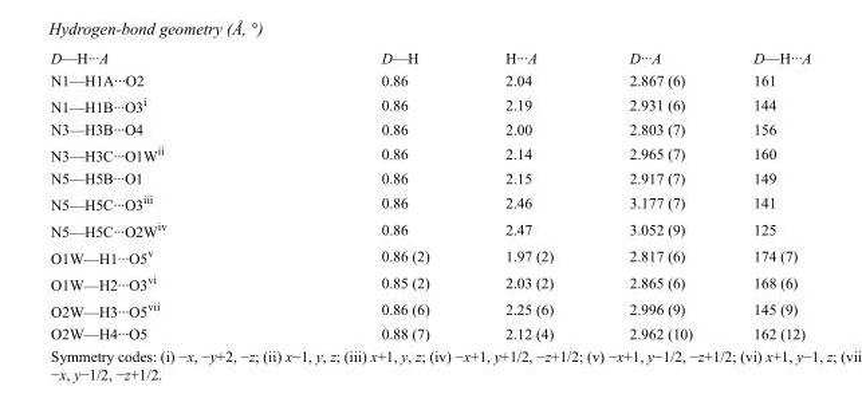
<table><tbody><tr><td>D—H···A</td><td>D—H</td><td>H···A</td><td>D···A</td><td>D—H···A</td></tr><tr><td>N1—H1A···O2</td><td>0.86</td><td>2.04</td><td>2.867 (6)</td><td>161</td></tr><tr><td>N1—H1B···O3<sup>i</sup></td><td>0.86</td><td>2.19</td><td>2.931 (6)</td><td>144</td></tr><tr><td>N3—H3B···O4</td><td>0.86</td><td>2.00</td><td>2.803 (7)</td><td>156</td></tr><tr><td>N3—H3C···O1W<sup>ii</sup></td><td>0.86</td><td>2.14</td><td>2.965 (7)</td><td>160</td></tr><tr><td>N5—H5B···O1</td><td>0.86</td><td>2.15</td><td>2.917 (7)</td><td>149</td></tr><tr><td>N5—H5C···O3<sup>iii</sup></td><td>0.86</td><td>2.46</td><td>3.177 (7)</td><td>141</td></tr><tr><td>N5—H5C···O2W<sup>iv</sup></td><td>0.86</td><td>2.47</td><td>3.052 (9)</td><td>125</td></tr><tr><td>O1W—H1···O5<sup>v</sup></td><td>0.86 (2)</td><td>1.97 (2)</td><td>2.817 (6)</td><td>174 (7)</td></tr><tr><td>O1W—H2···O3<sup>vi</sup></td><td>0.85 (2)</td><td>2.03 (2)</td><td>2.865 (6)</td><td>168 (6)</td></tr><tr><td>O2W—H3···O5<sup>vii</sup></td><td>0.86 (6)</td><td>2.25 (6)</td><td>2.996 (9)</td><td>145 (9)</td></tr><tr><td>O2W—H4···O5</td><td>0.88 (7)</td><td>2.12 (4)</td><td>2.962 (10)</td><td>162 (12)</td></tr></tbody></table>